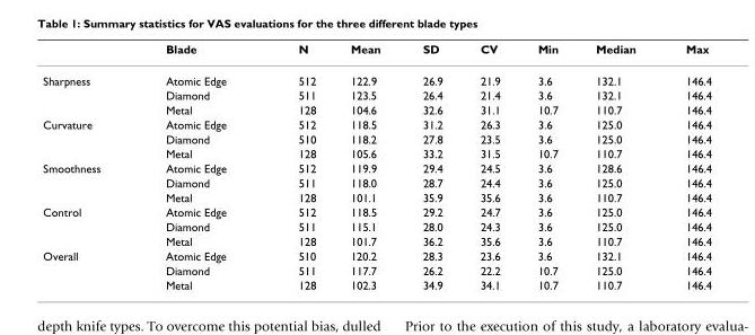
<table><thead><tr><td></td><td>Blade</td><td>N</td><td>Mean</td><td>SD</td><td>CV</td><td>Min</td><td>Median</td><td>Max</td></tr></thead><tbody><tr><td rowspan="3">Sharpness</td><td>Atomic Edge</td><td>512</td><td>122.9</td><td>26.9</td><td>21.9</td><td>3.6</td><td>132.1</td><td>146.4</td></tr><tr><td>Diamond</td><td>511</td><td>123.5</td><td>26.4</td><td>21.4</td><td>3.6</td><td>132.1</td><td>146.4</td></tr><tr><td>Metal</td><td>128</td><td>104.6</td><td>32.6</td><td>31.1</td><td>10.7</td><td>110.7</td><td>146.4</td></tr><tr><td rowspan="3">Curvature</td><td>Atomic Edge</td><td>512</td><td>118.5</td><td>31.2</td><td>26.3</td><td>3.6</td><td>125.0</td><td>146.4</td></tr><tr><td>Diamond</td><td>510</td><td>118.2</td><td>27.8</td><td>23.5</td><td>3.6</td><td>125.0</td><td>146.4</td></tr><tr><td>Metal</td><td>128</td><td>105.6</td><td>33.2</td><td>31.5</td><td>10.7</td><td>110.7</td><td>146.4</td></tr><tr><td rowspan="3">Smoothness</td><td>Atomic Edge</td><td>512</td><td>119.9</td><td>29.4</td><td>24.5</td><td>3.6</td><td>128.6</td><td>146.4</td></tr><tr><td>Diamond</td><td>511</td><td>118.0</td><td>28.7</td><td>24.4</td><td>3.6</td><td>125.0</td><td>146.4</td></tr><tr><td>Metal</td><td>128</td><td>101.1</td><td>35.9</td><td>35.6</td><td>3.6</td><td>110.7</td><td>146.4</td></tr><tr><td rowspan="3">Control</td><td>Atomic Edge</td><td>512</td><td>118.5</td><td>29.2</td><td>24.7</td><td>3.6</td><td>125.0</td><td>146.4</td></tr><tr><td>Diamond</td><td>511</td><td>115.1</td><td>28.0</td><td>24.3</td><td>3.6</td><td>125.0</td><td>146.4</td></tr><tr><td>Metal</td><td>128</td><td>101.7</td><td>36.2</td><td>35.6</td><td>3.6</td><td>110.7</td><td>146.4</td></tr><tr><td rowspan="3">Overall</td><td>Atomic Edge</td><td>510</td><td>120.2</td><td>28.3</td><td>23.6</td><td>3.6</td><td>132.1</td><td>146.4</td></tr><tr><td>Diamond</td><td>511</td><td>117.7</td><td>26.2</td><td>22.2</td><td>10.7</td><td>125.0</td><td>146.4</td></tr><tr><td>Metal</td><td>128</td><td>102.3</td><td>34.9</td><td>34.1</td><td>10.7</td><td>110.7</td><td>146.4</td></tr></tbody></table>